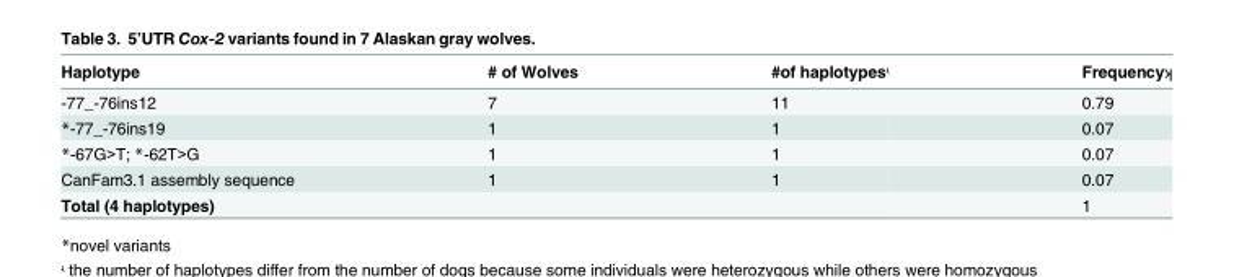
<table><thead><tr><td>Haplotype</td><td># of Wolves</td><td>#of haplotypesʵ</td><td>Frequencyʞ</td></tr></thead><tbody><tr><td>-77_-76ins12</td><td>7</td><td>11</td><td>0.79</td></tr><tr><td>*-77_-76ins19</td><td>1</td><td>1</td><td>0.07</td></tr><tr><td>*-67G&gt;T; *-62T&gt;G</td><td>1</td><td>1</td><td>0.07</td></tr><tr><td>CanFam3.1 assembly sequence</td><td>1</td><td>1</td><td>0.07</td></tr><tr><td colspan="3">Total (4 haplotypes)</td><td>1</td></tr></tbody></table>